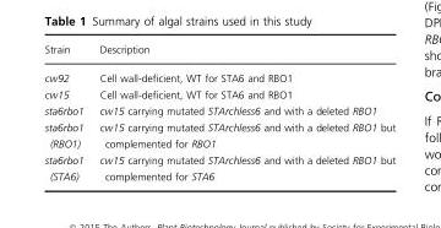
<table><thead><tr><td>Strain</td><td>Description</td></tr></thead><tbody><tr><td>cw92</td><td>Cell wall-deficient, WT for STA6 and RBO1</td></tr><tr><td>cw15</td><td>Cell wall-deficient, WT for STA6 and RBO1</td></tr><tr><td>sta6rbo1</td><td>cw15 carrying mutated STArchless6 and with a deleted RBO1</td></tr><tr><td>sta6rbo1 (RBO1)</td><td>cw15 carrying mutated STArchless6 and with a deleted RBO1 but complemented for RBO1</td></tr><tr><td>sta6rbo1 (STA6)</td><td>cw15 carrying mutated STArchless6 and with a deleted RBO1 but complemented for STA6</td></tr></tbody></table>